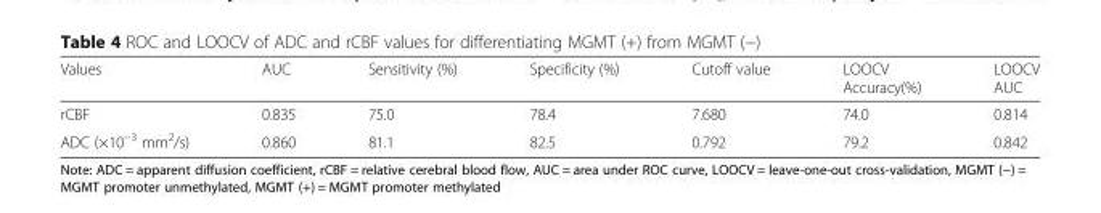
<table><thead><tr><td>Values</td><td>AUC</td><td>Sensitivity (%)</td><td>Specificity (%)</td><td>Cutoff value</td><td>LOOCV Accuracy(%)</td><td>LOOCV AUC</td></tr></thead><tbody><tr><td>rCBF</td><td>0.835</td><td>75.0</td><td>78.4</td><td>7.680</td><td>74.0</td><td>0.814</td></tr><tr><td>ADC (×10<sup>−3</sup> mm<sup>2</sup>/s)</td><td>0.860</td><td>81.1</td><td>82.5</td><td>0.792</td><td>79.2</td><td>0.842</td></tr></tbody></table>